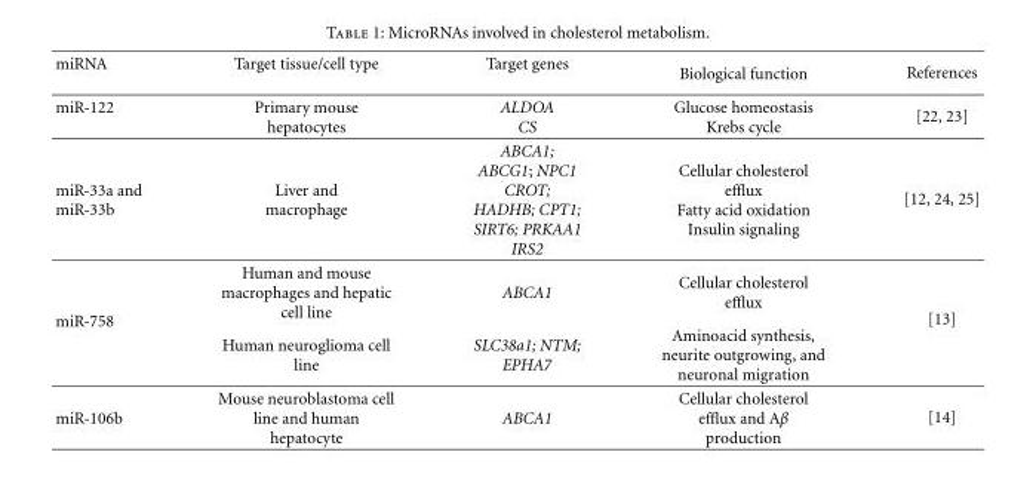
<table><thead><tr><td>miRNA</td><td>Target tissue/cell type</td><td>Target genes</td><td>Biological function</td><td>References</td></tr></thead><tbody><tr><td>miR-122</td><td>Primary mouse hepatocytes</td><td>ALDOA CS</td><td>Glucose homeostasis Krebs cycle</td><td>[22, 23]</td></tr><tr><td>miR-33a and miR-33b</td><td>Liver and macrophage</td><td>ABCA1; ABCG1; NPC1 CROT; HADHB; CPT1; SIRT6; PRKAA1 IRS2</td><td>Cellular cholesterol efflux Fatty acid oxidation Insulin signaling</td><td>[12, 24, 25]</td></tr><tr><td rowspan="2">miR-758</td><td>Human and mouse macrophages and hepatic cell line</td><td>ABCA1</td><td>Cellular cholesterol efflux</td><td rowspan="2">[13]</td></tr><tr><td>Human neuroglioma cell line</td><td>SLC38a1; NTM; EPHA7</td><td>Aminoacid synthesis, neurite outgrowing, and neuronal migration</td></tr><tr><td>miR-106b</td><td>Mouse neuroblastoma cell line and human hepatocyte</td><td>ABCA1</td><td>Cellular cholesterol efflux and Aβ production</td><td>[14]</td></tr></tbody></table>